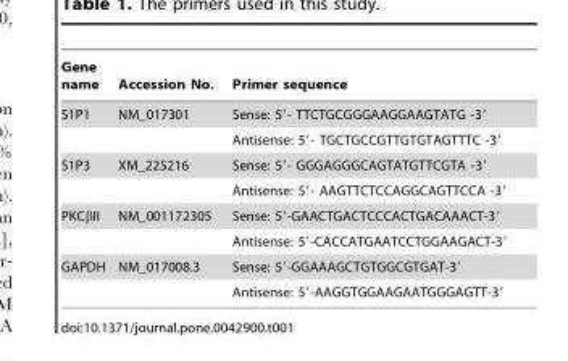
<table><thead><tr><td>Gene name</td><td>Accession No.</td><td>Primer sequence</td></tr></thead><tbody><tr><td rowspan="2">S1P1</td><td>NM_017301</td><td>Sense: 5′- TTCTGCGGGAAGGAAGTATG -3′</td></tr><tr><td></td><td>Antisense: 5′- TGCTGCCGTTGTGTAGTTTC -3′</td></tr><tr><td rowspan="2">S1P3</td><td>XM_225216</td><td>Sense: 5′- GGGAGGGCAGTATGTTCGTA -3′</td></tr><tr><td></td><td>Antisense: 5′- AAGTTCTCCAGGCAGTTCCA -3′</td></tr><tr><td rowspan="2">PKCβII</td><td>NM_001172305</td><td>Sense: 5′-GAACTGACTCCCACTGACAAACT-3′</td></tr><tr><td></td><td>Antisense: 5′-CACCATGAATCCTGGAAGACT-3′</td></tr><tr><td rowspan="2">GAPDH</td><td>NM_017008.3</td><td>Sense: 5′-GGAAAGCTGTGGCGTGAT-3′</td></tr><tr><td></td><td>Antisense: 5′-AAGGTGGAAGAATGGGAGTT-3′</td></tr></tbody></table>